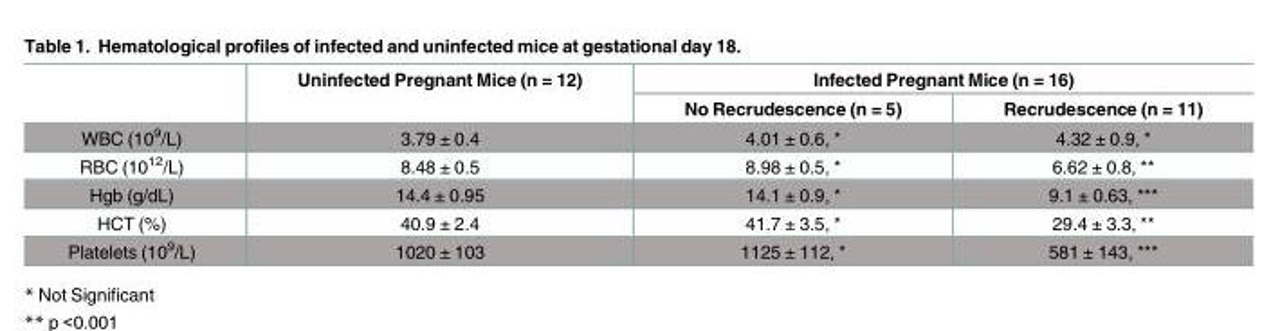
<table><thead><tr><td rowspan="2"></td><td rowspan="2">Uninfected Pregnant Mice (n = 12)</td><td colspan="2">Infected Pregnant Mice (n = 16)</td></tr><tr><td>No Recrudescence (n = 5)</td><td>Recrudescence (n = 11)</td></tr></thead><tbody><tr><td>WBC (10<sup>9</sup>/L)</td><td>3.79 ± 0.4</td><td>4.01 ± 0.6, *</td><td>4.32 ± 0.9, *</td></tr><tr><td>RBC (10<sup>12</sup>/L)</td><td>8.48 ± 0.5</td><td>8.98 ± 0.5, *</td><td>6.62 ± 0.8, **</td></tr><tr><td>Hgb (g/dL)</td><td>14.4 ± 0.95</td><td>14.1 ± 0.9, *</td><td>9.1 ± 0.63, ***</td></tr><tr><td>HCT (%)</td><td>40.9 ± 2.4</td><td>41.7 ± 3.5, *</td><td>29.4 ± 3.3, **</td></tr><tr><td>Platelets (10<sup>9</sup>/L)</td><td>1020 ± 103</td><td>1125 ± 112, *</td><td>581 ± 143, ***</td></tr></tbody></table>